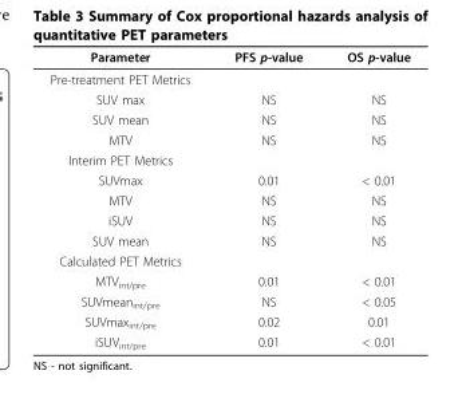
<table><thead><tr><td>Parameter</td><td>PFS p-value</td><td>OS p-value</td></tr></thead><tbody><tr><td colspan="3">Pre-treatment PET Metrics</td></tr><tr><td>SUV max</td><td>NS</td><td>NS</td></tr><tr><td>SUV mean</td><td>NS</td><td>NS</td></tr><tr><td>MTV</td><td>NS</td><td>NS</td></tr><tr><td colspan="3">Interim PET Metrics</td></tr><tr><td>SUVmax</td><td>0.01</td><td>&lt; 0.01</td></tr><tr><td>MTV</td><td>NS</td><td>NS</td></tr><tr><td>iSUV</td><td>NS</td><td>NS</td></tr><tr><td>SUV mean</td><td>NS</td><td>NS</td></tr><tr><td colspan="3">Calculated PET Metrics</td></tr><tr><td>MTV<sub>int/pre</sub></td><td>0.01</td><td>&lt; 0.01</td></tr><tr><td>SUVmean<sub>int/pre</sub></td><td>NS</td><td>&lt; 0.05</td></tr><tr><td>SUVmax<sub>int/pre</sub></td><td>0.02</td><td>0.01</td></tr><tr><td>iSUV<sub>int/pre</sub></td><td>0.01</td><td>&lt; 0.01</td></tr></tbody></table>